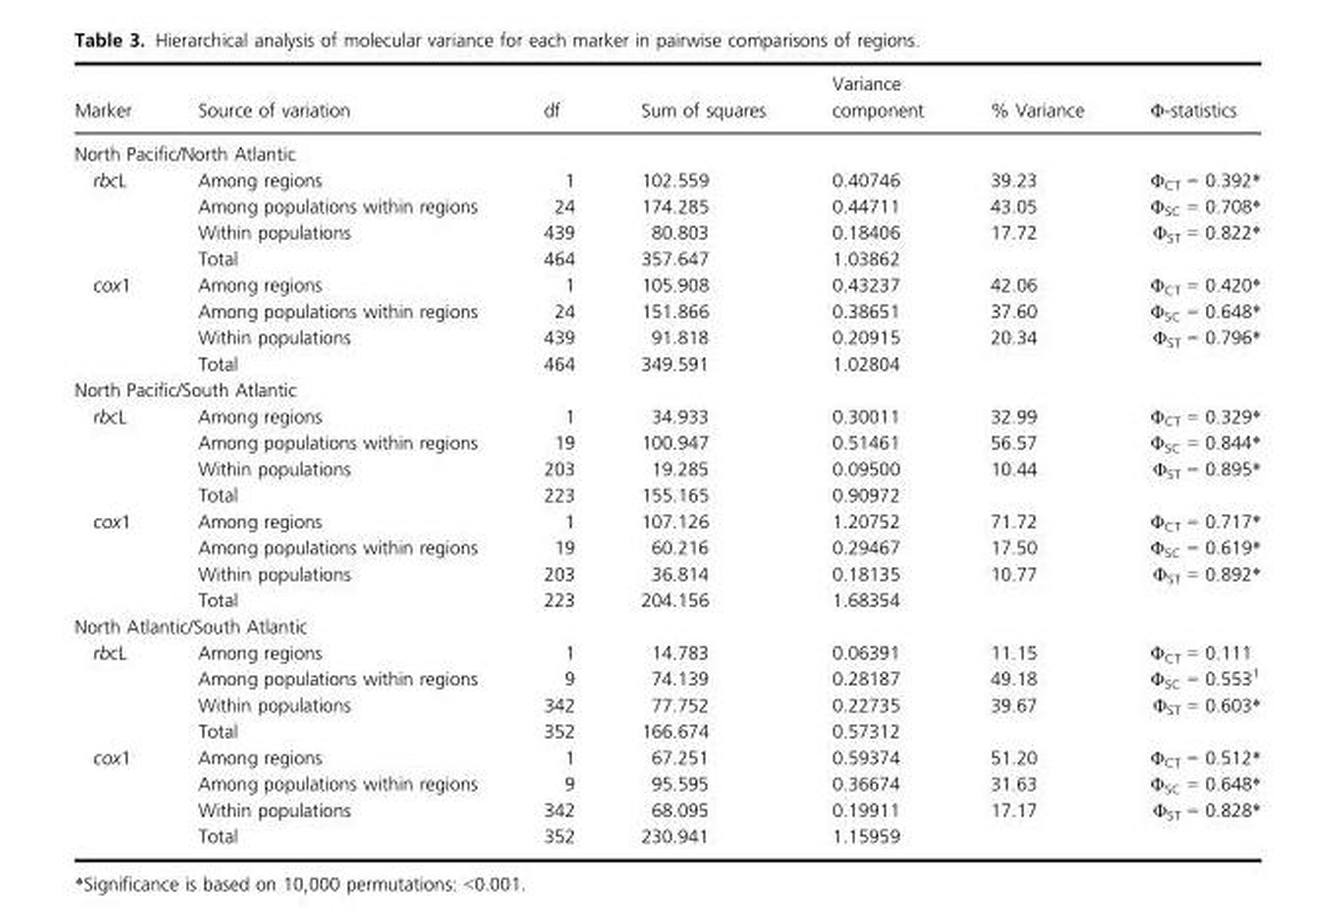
<table><thead><tr><td>Marker</td><td>Source of variation</td><td>df</td><td>Sum of squares</td><td>Variance component</td><td>% Variance</td><td>Φ-statistics</td></tr></thead><tbody><tr><td colspan="7">North Pacific/North Atlantic</td></tr><tr><td rowspan="4">rbcL</td><td>Among regions</td><td>1</td><td>102.559</td><td>0.40746</td><td>39.23</td><td>ΦCT = 0.392*</td></tr><tr><td>Among populations within regions</td><td>24</td><td>174.285</td><td>0.44711</td><td>43.05</td><td>ΦSC = 0.708*</td></tr><tr><td>Within populations</td><td>439</td><td>80.803</td><td>0.18406</td><td>17.72</td><td>ΦST = 0.822*</td></tr><tr><td>Total</td><td>464</td><td>357.647</td><td>1.03862</td><td></td><td></td></tr><tr><td rowspan="4">cox1</td><td>Among regions</td><td>1</td><td>105.908</td><td>0.43237</td><td>42.06</td><td>ΦCT = 0.420*</td></tr><tr><td>Among populations within regions</td><td>24</td><td>151.866</td><td>0.38651</td><td>37.60</td><td>ΦSC = 0.648*</td></tr><tr><td>Within populations</td><td>439</td><td>91.818</td><td>0.20915</td><td>20.34</td><td>ΦST = 0.796*</td></tr><tr><td>Total</td><td>464</td><td>349.591</td><td>1.02804</td><td></td><td></td></tr><tr><td colspan="7">North Pacific/South Atlantic</td></tr><tr><td rowspan="4">rbcL</td><td>Among regions</td><td>1</td><td>34.933</td><td>0.30011</td><td>32.99</td><td>ΦCT = 0.329*</td></tr><tr><td>Among populations within regions</td><td>19</td><td>100.947</td><td>0.51461</td><td>56.57</td><td>ΦSC = 0.844*</td></tr><tr><td>Within populations</td><td>203</td><td>19.285</td><td>0.09500</td><td>10.44</td><td>ΦST = 0.895*</td></tr><tr><td>Total</td><td>223</td><td>155.165</td><td>0.90972</td><td></td><td></td></tr><tr><td rowspan="4">cox1</td><td>Among regions</td><td>1</td><td>107.126</td><td>1.20752</td><td>71.72</td><td>ΦCT = 0.717*</td></tr><tr><td>Among populations within regions</td><td>19</td><td>60.216</td><td>0.29467</td><td>17.50</td><td>ΦSC = 0.619*</td></tr><tr><td>Within populations</td><td>203</td><td>36.814</td><td>0.18135</td><td>10.77</td><td>ΦST = 0.892*</td></tr><tr><td>Total</td><td>223</td><td>204.156</td><td>1.68354</td><td></td><td></td></tr><tr><td colspan="7">North Atlantic/South Atlantic</td></tr><tr><td rowspan="4">rbcL</td><td>Among regions</td><td>1</td><td>14.783</td><td>0.06391</td><td>11.15</td><td>Φ<sub>CT</sub> = 0.111</td></tr><tr><td>Among populations within regions</td><td>9</td><td>74.139</td><td>0.28187</td><td>49.18</td><td>ΦSC = 0.5531</td></tr><tr><td>Within populations</td><td>342</td><td>77.752</td><td>0.22735</td><td>39.67</td><td>ΦST = 0.603*</td></tr><tr><td>Total</td><td>352</td><td>166.674</td><td>0.57312</td><td></td><td></td></tr><tr><td rowspan="4">cox1</td><td>Among regions</td><td>1</td><td>67.251</td><td>0.59374</td><td>51.20</td><td>ΦCT = 0.512*</td></tr><tr><td>Among populations within regions</td><td>9</td><td>95.595</td><td>0.36674</td><td>31.63</td><td>ΦSC = 0.648*</td></tr><tr><td>Within populations</td><td>342</td><td>68.095</td><td>0.19911</td><td>17.17</td><td>ΦST = 0.828*</td></tr><tr><td>Total</td><td>352</td><td>230.941</td><td>1.15959</td><td></td><td></td></tr></tbody></table>